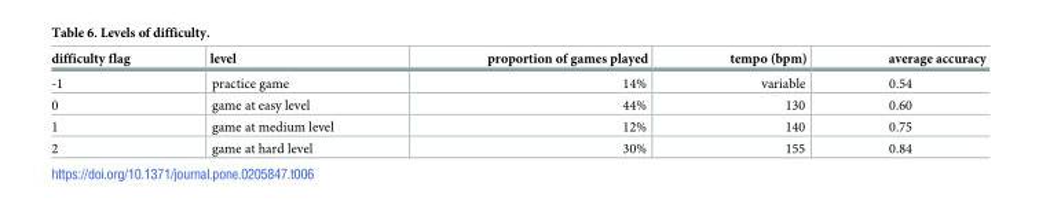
<table><thead><tr><td>difficulty flag</td><td>level</td><td>proportion of games played</td><td>tempo (bpm)</td><td>average accuracy</td></tr></thead><tbody><tr><td>-1</td><td>practice game</td><td>14%</td><td>variable</td><td>0.54</td></tr><tr><td>0</td><td>game at easy level</td><td>44%</td><td>130</td><td>0.60</td></tr><tr><td>1</td><td>game at medium level</td><td>12%</td><td>140</td><td>0.75</td></tr><tr><td>2</td><td>game at hard level</td><td>30%</td><td>155</td><td>0.84</td></tr></tbody></table>